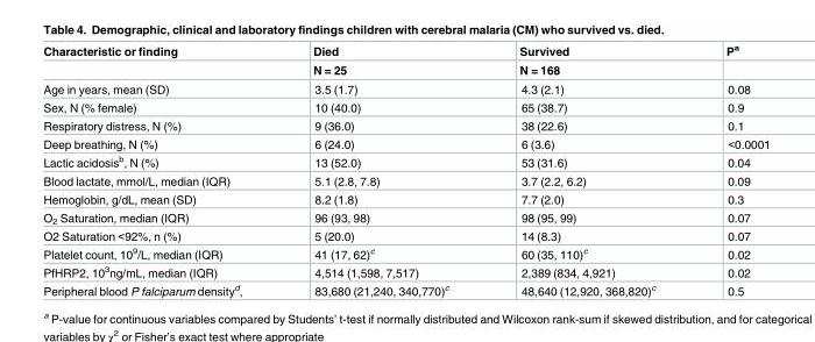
<table><thead><tr><td rowspan="2">Characteristic or finding</td><td rowspan="2">Died N = 25</td><td rowspan="2">Survived N = 168</td><td rowspan="2">P<sup>a</sup></td></tr><tr></tr></thead><tbody><tr><td>Age in years, mean (SD)</td><td>3.5 (1.7)</td><td>4.3 (2.1)</td><td>0.08</td></tr><tr><td>Sex, N (% female)</td><td>10 (40.0)</td><td>65 (38.7)</td><td>0.9</td></tr><tr><td>Respiratory distress, N (%)</td><td>9 (36.0)</td><td>38 (22.6)</td><td>0.1</td></tr><tr><td>Deep breathing, N (%)</td><td>6 (24.0)</td><td>6 (3.6)</td><td>&lt;0.0001</td></tr><tr><td>Lactic acidosis<sup>b</sup>, N (%)</td><td>13 (52.0)</td><td>53 (31.6)</td><td>0.04</td></tr><tr><td>Blood lactate, mmol/L, median (IQR)</td><td>5.1 (2.8, 7.8)</td><td>3.7 (2.2, 6.2)</td><td>0.09</td></tr><tr><td>Hemoglobin, g/dL, mean (SD)</td><td>8.2 (1.8)</td><td>7.7 (2.0)</td><td>0.3</td></tr><tr><td>O<sub>2</sub> Saturation, median (IQR)</td><td>96 (93, 98)</td><td>98 (95, 99)</td><td>0.07</td></tr><tr><td>O2 Saturation &lt;92%, n (%)</td><td>5 (20.0)</td><td>14 (8.3)</td><td>0.07</td></tr><tr><td>Platelet count, 10<sup>9</sup>/L, median (IQR)</td><td>41 (17, 62)<sup>c</sup></td><td>60 (35, 110)<sup>c</sup></td><td>0.02</td></tr><tr><td>PfHRP2, 10<sup>3</sup>ng/mL, median (IQR)</td><td>4,514 (1,598, 7,517)</td><td>2,389 (834, 4,921)</td><td>0.02</td></tr><tr><td>Peripheral blood P falciparum density<sup>d</sup>,</td><td>83,680 (21,240, 340,770)<sup>c</sup></td><td>48,640 (12,920, 368,820)<sup>c</sup></td><td>0.5</td></tr></tbody></table>